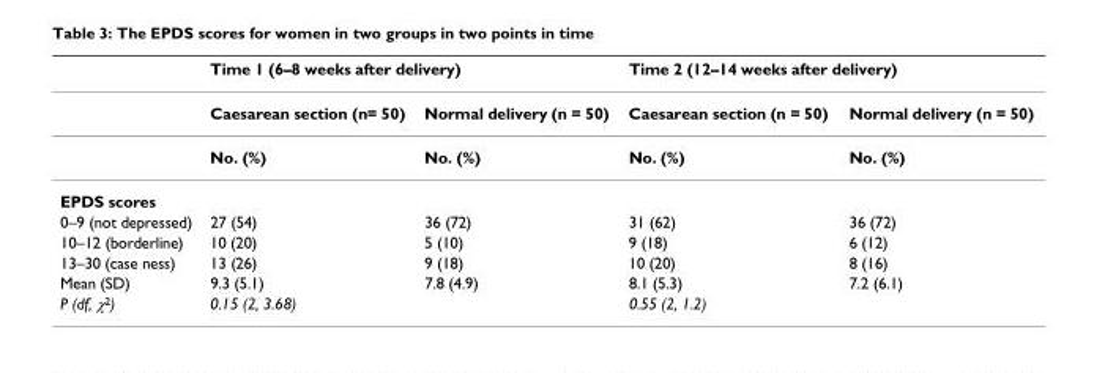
<table><thead><tr><td rowspan="2"></td><td colspan="2">Time 1 (6–8 weeks after delivery)</td><td colspan="2">Time 2 (12–14 weeks after delivery)</td></tr><tr><td>Caesarean section (n= 50)</td><td>Normal delivery (n = 50)</td><td>Caesarean section (n = 50)</td><td>Normal delivery (n = 50)</td></tr></thead><tbody><tr><td></td><td>No. (%)</td><td>No. (%)</td><td>No. (%)</td><td>No. (%)</td></tr><tr><td colspan="5">EPDS scores</td></tr><tr><td>0–9 (not depressed)</td><td>27 (54)</td><td>36 (72)</td><td>31 (62)</td><td>36 (72)</td></tr><tr><td>10–12 (borderline)</td><td>10 (20)</td><td>5 (10)</td><td>9 (18)</td><td>6 (12)</td></tr><tr><td>13–30 (case ness)</td><td>13 (26)</td><td>9 (18)</td><td>10 (20)</td><td>8 (16)</td></tr><tr><td>Mean (SD)</td><td>9.3 (5.1)</td><td>7.8 (4.9)</td><td>8.1 (5.3)</td><td>7.2 (6.1)</td></tr><tr><td>P (df, χ<sup>2</sup>)</td><td colspan="2">0.15 (2, 3.68)</td><td colspan="2">0.55 (2, 1.2)</td></tr></tbody></table>